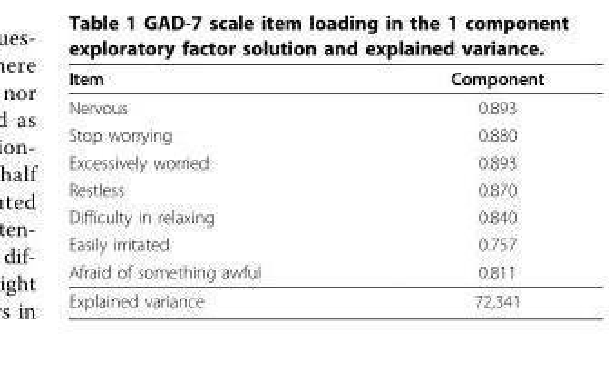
<table><thead><tr><td>Item</td><td>Component</td></tr></thead><tbody><tr><td>Nervous</td><td>0.893</td></tr><tr><td>Stop worrying</td><td>0.880</td></tr><tr><td>Excessively worried</td><td>0.893</td></tr><tr><td>Restless</td><td>0.870</td></tr><tr><td>Difficulty in relaxing</td><td>0.840</td></tr><tr><td>Easily irritated</td><td>0.757</td></tr><tr><td>Afraid of something awful</td><td>0.811</td></tr><tr><td>Explained variance</td><td>72,341</td></tr></tbody></table>